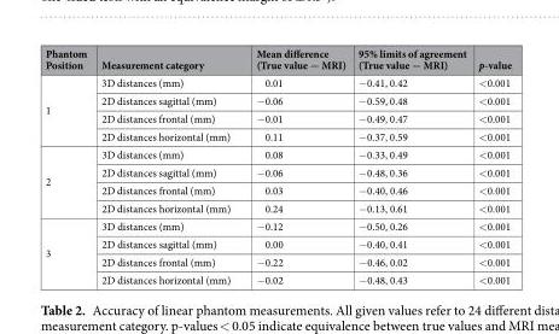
<table><thead><tr><td>Phantom Position</td><td>Measurement category</td><td>Mean difference (True value − MRI)</td><td>95% limits of agreement (True value − MRI)</td><td>p-value</td></tr></thead><tbody><tr><td rowspan="4">1</td><td>3D distances (mm)</td><td>0.01</td><td>−0.41, 0.42</td><td>&lt;0.001</td></tr><tr><td>2D distances sagittal (mm)</td><td>−0.06</td><td>−0.59, 0.48</td><td>&lt;0.001</td></tr><tr><td>2D distances frontal (mm)</td><td>−0.01</td><td>−0.49, 0.47</td><td>&lt;0.001</td></tr><tr><td>2D distances horizontal (mm)</td><td>0.11</td><td>−0.37, 0.59</td><td>&lt;0.001</td></tr><tr><td rowspan="4">2</td><td>3D distances (mm)</td><td>0.08</td><td>−0.33, 0.49</td><td>&lt;0.001</td></tr><tr><td>2D distances sagittal (mm)</td><td>−0.06</td><td>−0.48, 0.36</td><td>&lt;0.001</td></tr><tr><td>2D distances frontal (mm)</td><td>0.03</td><td>−0.40, 0.46</td><td>&lt;0.001</td></tr><tr><td>2D distances horizontal (mm)</td><td>0.24</td><td>−0.13, 0.61</td><td>&lt;0.001</td></tr><tr><td rowspan="4">3</td><td>3D distances (mm)</td><td>−0.12</td><td>−0.50, 0.26</td><td>&lt;0.001</td></tr><tr><td>2D distances sagittal (mm)</td><td>0.00</td><td>−0.40, 0.41</td><td>&lt;0.001</td></tr><tr><td>2D distances frontal (mm)</td><td>−0.22</td><td>−0.46, 0.02</td><td>&lt;0.001</td></tr><tr><td>2D distances horizontal (mm)</td><td>−0.02</td><td>−0.48, 0.43</td><td>&lt;0.001</td></tr></tbody></table>